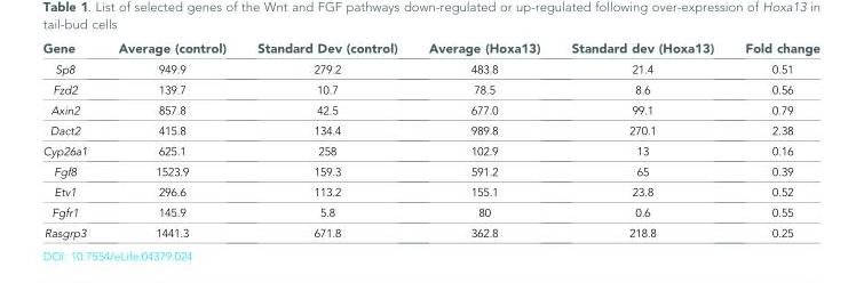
<table><thead><tr><td>Gene</td><td>Average (control)</td><td>Standard Dev (control)</td><td>Average (Hoxa13)</td><td>Standard dev (Hoxa13)</td><td>Fold change</td></tr></thead><tbody><tr><td>Sp8</td><td>949.9</td><td>279.2</td><td>483.8</td><td>21.4</td><td>0.51</td></tr><tr><td>Fzd2</td><td>139.7</td><td>10.7</td><td>78.5</td><td>8.6</td><td>0.56</td></tr><tr><td>Axin2</td><td>857.8</td><td>42.5</td><td>677.0</td><td>99.1</td><td>0.79</td></tr><tr><td>Dact2</td><td>415.8</td><td>134.4</td><td>989.8</td><td>270.1</td><td>2.38</td></tr><tr><td>Cyp26a1</td><td>625.1</td><td>258</td><td>102.9</td><td>13</td><td>0.16</td></tr><tr><td>Fgf8</td><td>1523.9</td><td>159.3</td><td>591.2</td><td>65</td><td>0.39</td></tr><tr><td>Etv1</td><td>296.6</td><td>113.2</td><td>155.1</td><td>23.8</td><td>0.52</td></tr><tr><td>Fgfr1</td><td>145.9</td><td>5.8</td><td>80</td><td>0.6</td><td>0.55</td></tr><tr><td>Rasgrp3</td><td>1441.3</td><td>671.8</td><td>362.8</td><td>218.8</td><td>0.25</td></tr></tbody></table>